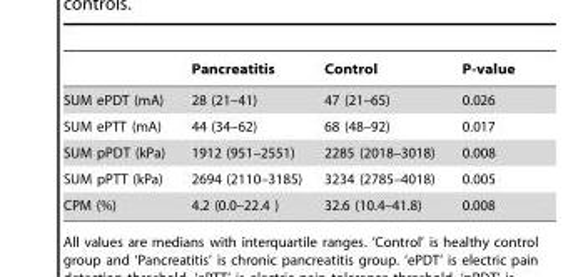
<table><thead><tr><td></td><td>Pancreatitis</td><td>Control</td><td>P-value</td></tr></thead><tbody><tr><td>SUM ePDT (mA)</td><td>28 (21–41)</td><td>47 (21–65)</td><td>0.026</td></tr><tr><td>SUM ePTT (mA)</td><td>44 (34–62)</td><td>68 (48–92)</td><td>0.017</td></tr><tr><td>SUM pPDT (kPa)</td><td>1912 (951–2551)</td><td>2285 (2018–3018)</td><td>0.008</td></tr><tr><td>SUM pPTT (kPa)</td><td>2694 (2110–3185)</td><td>3234 (2785–4018)</td><td>0.005</td></tr><tr><td>CPM (%)</td><td>4.2 (0.0–22.4 )</td><td>32.6 (10.4–41.8)</td><td>0.008</td></tr></tbody></table>